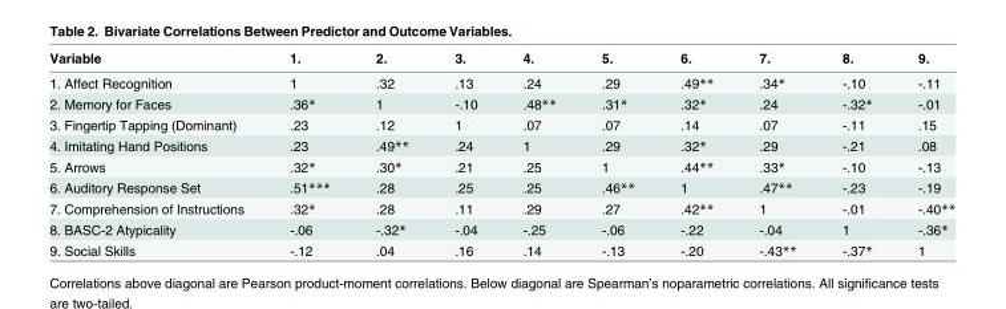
<table><thead><tr><td>Variable</td><td>1.</td><td>2.</td><td>3.</td><td>4.</td><td>5.</td><td>6.</td><td>7.</td><td>8.</td><td>9.</td></tr></thead><tbody><tr><td>1. Affect Recognition</td><td>1</td><td>.32</td><td>.13</td><td>.24</td><td>.29</td><td>.49**</td><td>.34*</td><td>-.10</td><td>-.11</td></tr><tr><td>2. Memory for Faces</td><td>.36*</td><td>1</td><td>-.10</td><td>.48**</td><td>.31*</td><td>.32*</td><td>.24</td><td>-.32*</td><td>-.01</td></tr><tr><td>3. Fingertip Tapping (Dominant)</td><td>.23</td><td>.12</td><td>1</td><td>.07</td><td>.07</td><td>.14</td><td>.07</td><td>-.11</td><td>.15</td></tr><tr><td>4. Imitating Hand Positions</td><td>.23</td><td>.49**</td><td>.24</td><td>1</td><td>.29</td><td>.32*</td><td>.29</td><td>-.21</td><td>.08</td></tr><tr><td>5. Arrows</td><td>.32*</td><td>.30*</td><td>.21</td><td>.25</td><td>1</td><td>.44**</td><td>.33*</td><td>-.10</td><td>-.13</td></tr><tr><td>6. Auditory Response Set</td><td>.51***</td><td>.28</td><td>.25</td><td>.25</td><td>.46**</td><td>1</td><td>.47**</td><td>-.23</td><td>-.19</td></tr><tr><td>7. Comprehension of Instructions</td><td>.32*</td><td>.28</td><td>.11</td><td>.29</td><td>.27</td><td>.42**</td><td>1</td><td>-.01</td><td>-.40**</td></tr><tr><td>8. BASC-2 Atypicality</td><td>-.06</td><td>-.32*</td><td>-.04</td><td>-.25</td><td>-.06</td><td>-.22</td><td>-.04</td><td>1</td><td>-.36*</td></tr><tr><td>9. Social Skills</td><td>-.12</td><td>.04</td><td>.16</td><td>.14</td><td>-.13</td><td>-.20</td><td>-.43**</td><td>-.37*</td><td>1</td></tr></tbody></table>